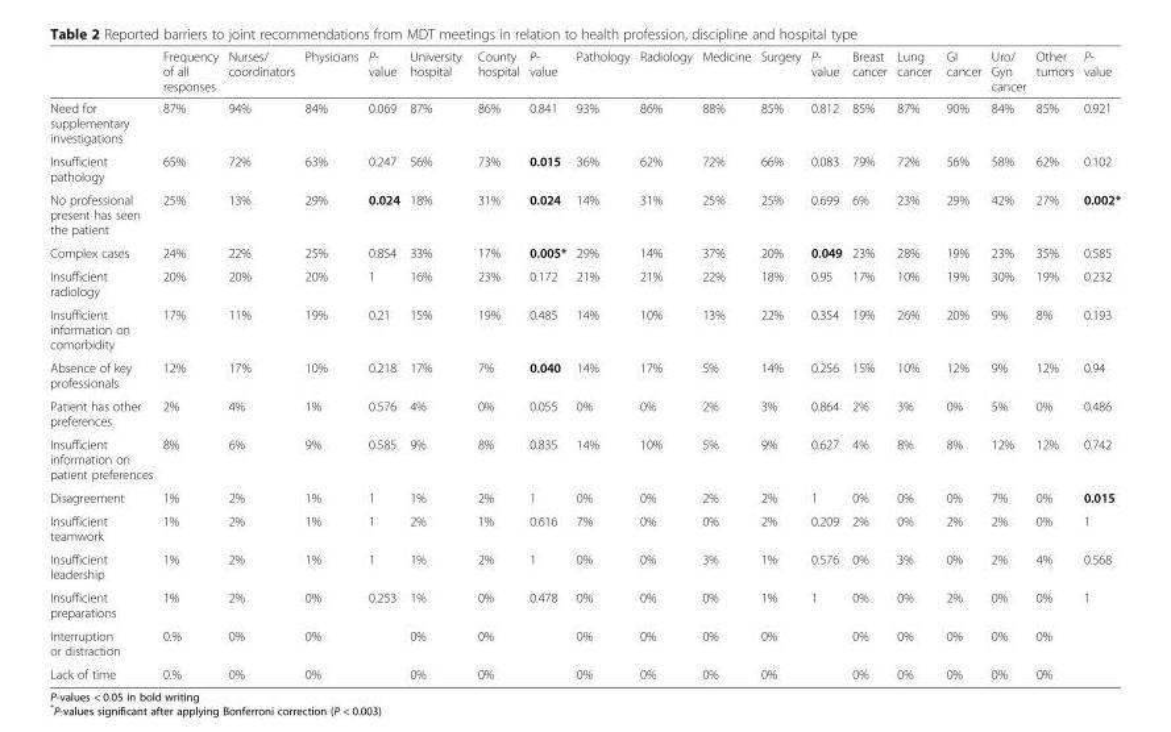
<table><thead><tr><td></td><td>Frequency of all responses</td><td>Nurses/ coordinators</td><td>Physicians</td><td>P- value</td><td>University hospital</td><td>County hospital</td><td>P- value</td><td>Pathology</td><td>Radiology</td><td>Medicine</td><td>Surgery</td><td>P- value</td><td>Breast cancer</td><td>Lung cancer</td><td>GI cancer</td><td>Uro/ Gyn cancer</td><td>Other tumors</td><td>P- value</td></tr></thead><tbody><tr><td>Need for supplementary investigations</td><td>87%</td><td>94%</td><td>84%</td><td>0.069</td><td>87%</td><td>86%</td><td>0.841</td><td>93%</td><td>86%</td><td>88%</td><td>85%</td><td>0.812</td><td>85%</td><td>87%</td><td>90%</td><td>84%</td><td>85%</td><td>0.921</td></tr><tr><td>Insufficient pathology</td><td>65%</td><td>72%</td><td>63%</td><td>0.247</td><td>56%</td><td>73%</td><td>0.015</td><td>36%</td><td>62%</td><td>72%</td><td>66%</td><td>0.083</td><td>79%</td><td>72%</td><td>56%</td><td>58%</td><td>62%</td><td>0.102</td></tr><tr><td>No professional present has seen the patient</td><td>25%</td><td>13%</td><td>29%</td><td>0.024</td><td>18%</td><td>31%</td><td>0.024</td><td>14%</td><td>31%</td><td>25%</td><td>25%</td><td>0.699</td><td>6%</td><td>23%</td><td>29%</td><td>42%</td><td>27%</td><td>0.002*</td></tr><tr><td>Complex cases</td><td>24%</td><td>22%</td><td>25%</td><td>0.854</td><td>33%</td><td>17%</td><td>0.005*</td><td>29%</td><td>14%</td><td>37%</td><td>20%</td><td>0.049</td><td>23%</td><td>28%</td><td>19%</td><td>23%</td><td>35%</td><td>0.585</td></tr><tr><td>Insufficient radiology</td><td>20%</td><td>20%</td><td>20%</td><td>1</td><td>16%</td><td>23%</td><td>0.172</td><td>21%</td><td>21%</td><td>22%</td><td>18%</td><td>0.95</td><td>17%</td><td>10%</td><td>19%</td><td>30%</td><td>19%</td><td>0.232</td></tr><tr><td>Insufficient information on comorbidity</td><td>17%</td><td>11%</td><td>19%</td><td>0.21</td><td>15%</td><td>19%</td><td>0.485</td><td>14%</td><td>10%</td><td>13%</td><td>22%</td><td>0.354</td><td>19%</td><td>26%</td><td>20%</td><td>9%</td><td>8%</td><td>0.193</td></tr><tr><td>Absence of key professionals</td><td>12%</td><td>17%</td><td>10%</td><td>0.218</td><td>17%</td><td>7%</td><td>0.040</td><td>14%</td><td>17%</td><td>5%</td><td>14%</td><td>0.256</td><td>15%</td><td>10%</td><td>12%</td><td>9%</td><td>12%</td><td>0.94</td></tr><tr><td>Patient has other preferences</td><td>2%</td><td>4%</td><td>1%</td><td>0.576</td><td>4%</td><td>0%</td><td>0.055</td><td>0%</td><td>0%</td><td>2%</td><td>3%</td><td>0.864</td><td>2%</td><td>3%</td><td>0%</td><td>5%</td><td>0%</td><td>0.486</td></tr><tr><td>Insufficient information on patient preferences</td><td>8%</td><td>6%</td><td>9%</td><td>0.585</td><td>9%</td><td>8%</td><td>0.835</td><td>14%</td><td>10%</td><td>5%</td><td>9%</td><td>0.627</td><td>4%</td><td>8%</td><td>8%</td><td>12%</td><td>12%</td><td>0.742</td></tr><tr><td>Disagreement</td><td>1%</td><td>2%</td><td>1%</td><td>1</td><td>1%</td><td>2%</td><td>1</td><td>0%</td><td>0%</td><td>2%</td><td>2%</td><td>1</td><td>0%</td><td>0%</td><td>0%</td><td>7%</td><td>0%</td><td>0.015</td></tr><tr><td>Insufficient teamwork</td><td>1%</td><td>2%</td><td>1%</td><td>1</td><td>2%</td><td>1%</td><td>0.616</td><td>7%</td><td>0%</td><td>0%</td><td>2%</td><td>0.209</td><td>2%</td><td>0%</td><td>2%</td><td>2%</td><td>0%</td><td>1</td></tr><tr><td>Insufficient leadership</td><td>1%</td><td>2%</td><td>1%</td><td>1</td><td>1%</td><td>2%</td><td>1</td><td>0%</td><td>0%</td><td>3%</td><td>1%</td><td>0.576</td><td>0%</td><td>3%</td><td>0%</td><td>2%</td><td>4%</td><td>0.568</td></tr><tr><td>Insufficient preparations</td><td>1%</td><td>2%</td><td>0%</td><td>0.253</td><td>1%</td><td>0%</td><td>0.478</td><td>0%</td><td>0%</td><td>0%</td><td>1%</td><td>1</td><td>0%</td><td>0%</td><td>2%</td><td>0%</td><td>0%</td><td>1</td></tr><tr><td>Interruption or distraction</td><td>0.%</td><td>0%</td><td>0%</td><td></td><td>0%</td><td>0%</td><td></td><td>0%</td><td>0%</td><td>0%</td><td>0%</td><td></td><td>0%</td><td>0%</td><td>0%</td><td>0%</td><td>0%</td><td></td></tr><tr><td>Lack of time</td><td>0.%</td><td>0%</td><td>0%</td><td></td><td>0%</td><td>0%</td><td></td><td>0%</td><td>0%</td><td>0%</td><td>0%</td><td></td><td>0%</td><td>0%</td><td>0%</td><td>0%</td><td>0%</td><td></td></tr></tbody></table>